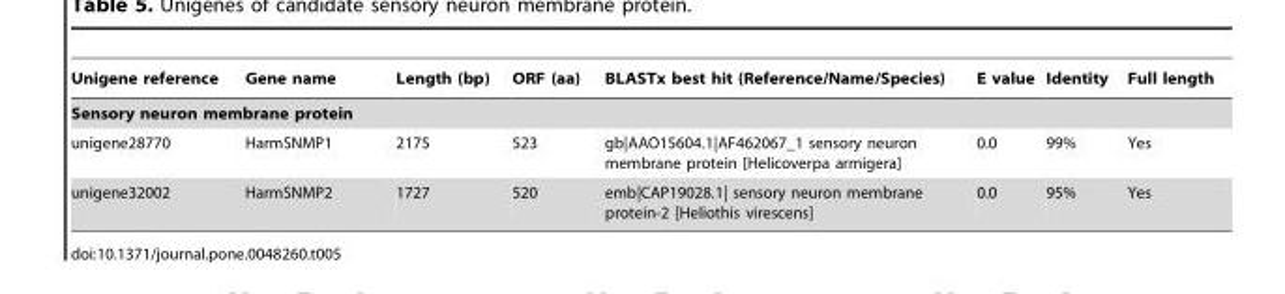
<table><thead><tr><td>Unigene reference</td><td>Gene name</td><td>Length (bp)</td><td>ORF (aa)</td><td>BLASTx best hit (Reference/Name/Species)</td><td>E value</td><td>Identity</td><td>Full length</td></tr></thead><tbody><tr><td colspan="8">Sensory neuron membrane protein</td></tr><tr><td>unigene28770</td><td>HarmSNMP1</td><td>2175</td><td>523</td><td>gb|AAO15604.1|AF462067_1 sensory neuron membrane protein [Helicoverpa armigera]</td><td>0.0</td><td>99%</td><td>Yes</td></tr><tr><td>unigene32002</td><td>HarmSNMP2</td><td>1727</td><td>520</td><td>emb|CAP19028.1| sensory neuron membrane protein-2 [Heliothis virescens]</td><td>0.0</td><td>95%</td><td>Yes</td></tr></tbody></table>